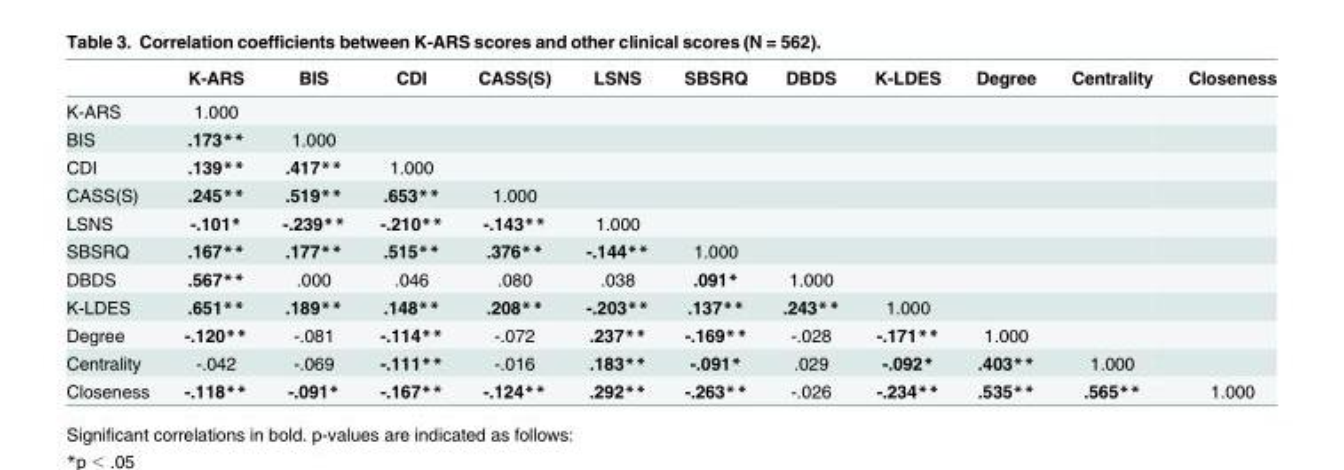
<table><thead><tr><td></td><td>K-ARS</td><td>BIS</td><td>CDI</td><td>CASS(S)</td><td>LSNS</td><td>SBSRQ</td><td>DBDS</td><td>K-LDES</td><td>Degree</td><td>Centrality</td><td>Closeness</td></tr></thead><tbody><tr><td>K-ARS</td><td>1.000</td><td></td><td></td><td></td><td></td><td></td><td></td><td></td><td></td><td></td><td></td></tr><tr><td>BIS</td><td>.173**</td><td>1.000</td><td></td><td></td><td></td><td></td><td></td><td></td><td></td><td></td><td></td></tr><tr><td>CDI</td><td>.139**</td><td>.417**</td><td>1.000</td><td></td><td></td><td></td><td></td><td></td><td></td><td></td><td></td></tr><tr><td>CASS(S)</td><td>.245**</td><td>.519**</td><td>.653**</td><td>1.000</td><td></td><td></td><td></td><td></td><td></td><td></td><td></td></tr><tr><td>LSNS</td><td>-.101*</td><td>-.239**</td><td>-.210**</td><td>-.143**</td><td>1.000</td><td></td><td></td><td></td><td></td><td></td><td></td></tr><tr><td>SBSRQ</td><td>.167**</td><td>.177**</td><td>.515**</td><td>.376**</td><td>-.144**</td><td>1.000</td><td></td><td></td><td></td><td></td><td></td></tr><tr><td>DBDS</td><td>.567**</td><td>.000</td><td>.046</td><td>.080</td><td>.038</td><td>.091*</td><td>1.000</td><td></td><td></td><td></td><td></td></tr><tr><td>K-LDES</td><td>.651**</td><td>.189**</td><td>.148**</td><td>.208**</td><td>-.203**</td><td>.137**</td><td>.243**</td><td>1.000</td><td></td><td></td><td></td></tr><tr><td>Degree</td><td>-.120**</td><td>-.081</td><td>-.114**</td><td>-.072</td><td>.237**</td><td>-.169**</td><td>-.028</td><td>-.171**</td><td>1.000</td><td></td><td></td></tr><tr><td>Centrality</td><td>-.042</td><td>-.069</td><td>-.111**</td><td>-.016</td><td>.183**</td><td>-.091*</td><td>.029</td><td>-.092*</td><td>.403**</td><td>1.000</td><td></td></tr><tr><td>Closeness</td><td>-.118**</td><td>-.091*</td><td>-.167**</td><td>-.124**</td><td>.292**</td><td>-.263**</td><td>-.026</td><td>-.234**</td><td>.535**</td><td>.565**</td><td>1.000</td></tr></tbody></table>